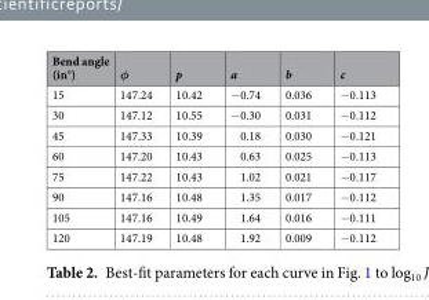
<table><thead><tr><td>Bend angle (in°)</td><td>φ</td><td>p</td><td>a</td><td>b</td><td>c</td></tr></thead><tbody><tr><td>15</td><td>147.24</td><td>10.42</td><td>−0.74</td><td>0.036</td><td>−0.113</td></tr><tr><td>30</td><td>147.12</td><td>10.55</td><td>−0.30</td><td>0.031</td><td>−0.112</td></tr><tr><td>45</td><td>147.33</td><td>10.39</td><td>0.18</td><td>0.030</td><td>−0.121</td></tr><tr><td>60</td><td>147.20</td><td>10.43</td><td>0.63</td><td>0.025</td><td>−0.113</td></tr><tr><td>75</td><td>147.22</td><td>10.43</td><td>1.02</td><td>0.021</td><td>−0.117</td></tr><tr><td>90</td><td>147.16</td><td>10.48</td><td>1.35</td><td>0.017</td><td>−0.112</td></tr><tr><td>105</td><td>147.16</td><td>10.49</td><td>1.64</td><td>0.016</td><td>−0.111</td></tr><tr><td>120</td><td>147.19</td><td>10.48</td><td>1.92</td><td>0.009</td><td>−0.112</td></tr></tbody></table>